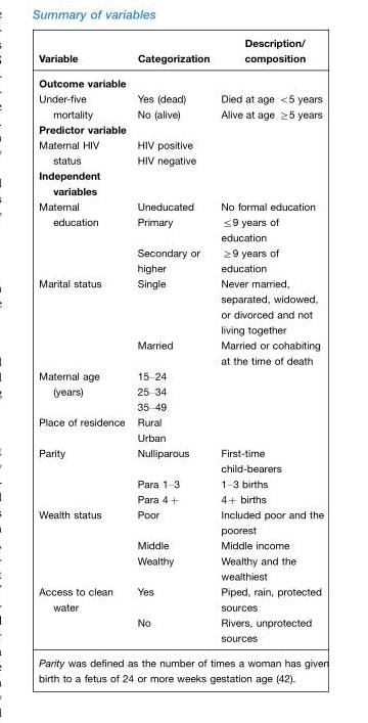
<table><thead><tr><td>Variable</td><td>Categorization</td><td>Description/ composition</td></tr></thead><tbody><tr><td colspan="3">Outcome variable</td></tr><tr><td rowspan="2">Under-five mortality</td><td>Yes (dead)</td><td>Died at age &lt;5 years</td></tr><tr><td>No (alive)</td><td>Alive at age ≥5 years</td></tr><tr><td colspan="3">Predictor variable</td></tr><tr><td rowspan="2">Maternal HIV status</td><td>HIV positive</td><td></td></tr><tr><td>HIV negative</td><td></td></tr><tr><td colspan="3">Independent variables</td></tr><tr><td rowspan="3">Maternal education</td><td>Uneducated</td><td>No formal education</td></tr><tr><td>Primary</td><td>≤9 years of education</td></tr><tr><td>Secondary or higher</td><td>≥9 years of education</td></tr><tr><td rowspan="2">Marital status</td><td>Single</td><td>Never married, separated, widowed, or divorced and not living together</td></tr><tr><td>Married</td><td>Married or cohabiting at the time of death</td></tr><tr><td rowspan="3">Maternal age (years)</td><td>15–24</td><td></td></tr><tr><td>25–34</td><td></td></tr><tr><td>35–49</td><td></td></tr><tr><td rowspan="2">Place of residence</td><td>Rural</td><td></td></tr><tr><td>Urban</td><td></td></tr><tr><td rowspan="3">Parity</td><td>Nulliparous</td><td>First-time child-bearers</td></tr><tr><td>Para 1–3</td><td>1–3 births</td></tr><tr><td>Para 4+</td><td>4+ births</td></tr><tr><td rowspan="3">Wealth status</td><td>Poor</td><td>Included poor and the poorest</td></tr><tr><td>Middle</td><td>Middle income</td></tr><tr><td>Wealthy</td><td>Wealthy and the wealthiest</td></tr><tr><td rowspan="2">Access to clean water</td><td>Yes</td><td>Piped, rain, protected sources</td></tr><tr><td>No</td><td>Rivers, unprotected sources</td></tr><tr><td colspan="3">Parity was defined as the number of times a woman has given birth to a fetus of 24 or more weeks gestation age (42).</td></tr></tbody></table>